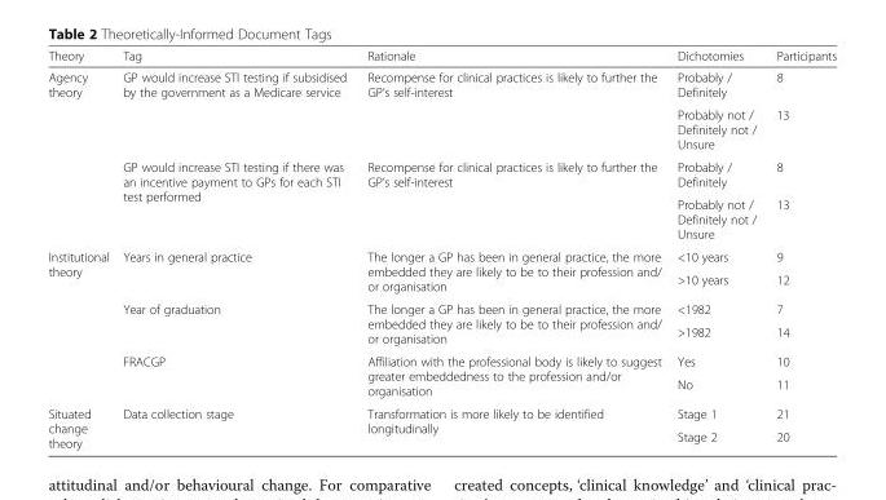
<table><thead><tr><td>Theory</td><td>Tag</td><td>Rationale</td><td>Dichotomies</td><td>Participants</td></tr></thead><tbody><tr><td rowspan="4">Agency theory</td><td rowspan="2">GP would increase STI testing if subsidised by the government as a Medicare service</td><td rowspan="2">Recompense for clinical practices is likely to further the GP’s self-interest</td><td>Probably / Definitely</td><td>8</td></tr><tr><td>Probably not / Definitely not / Unsure</td><td>13</td></tr><tr><td rowspan="2">GP would increase STI testing if there was an incentive payment to GPs for each STI test performed</td><td rowspan="2">Recompense for clinical practices is likely to further the GP’s self-interest</td><td>Probably / Definitely</td><td>8</td></tr><tr><td>Probably not / Definitely not / Unsure</td><td>13</td></tr><tr><td rowspan="6">Institutional theory</td><td rowspan="2">Years in general practice</td><td rowspan="2">The longer a GP has been in general practice, the more embedded they are likely to be to their profession and/ or organisation</td><td>&lt;10 years</td><td>9</td></tr><tr><td>&gt;10 years</td><td>12</td></tr><tr><td rowspan="2">Year of graduation</td><td rowspan="2">The longer a GP has been in general practice, the more embedded they are likely to be to their profession and/ or organisation</td><td>&lt;1982</td><td>7</td></tr><tr><td>&gt;1982</td><td>14</td></tr><tr><td rowspan="2">FRACGP</td><td rowspan="2">Affiliation with the professional body is likely to suggest greater embeddedness to the profession and/or organisation</td><td>Yes</td><td>10</td></tr><tr><td>No</td><td>11</td></tr><tr><td rowspan="2">Situated change theory</td><td rowspan="2">Data collection stage</td><td rowspan="2">Transformation is more likely to be identified longitudinally</td><td>Stage 1</td><td>21</td></tr><tr><td>Stage 2</td><td>20</td></tr></tbody></table>